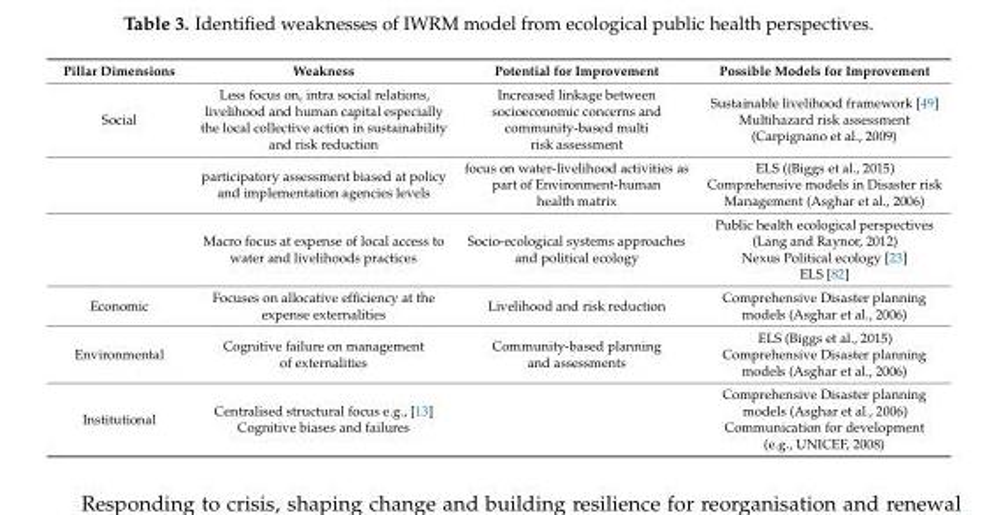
<table><thead><tr><td>Pillar Dimensions</td><td>Weakness</td><td>Potential for Improvement</td><td>Possible Models for Improvement</td></tr></thead><tbody><tr><td rowspan="3">Social</td><td>Less focus on, intra social relations, livelihood and human capital especially the local collective action in sustainability and risk reduction</td><td>Increased linkage between socioeconomic concerns and community-based multi risk assessment</td><td>Sustainable livelihood framework [49] Multihazard risk assessment (Carpignano et al., 2009)</td></tr><tr><td>participatory assessment biased at policy and implementation agencies levels</td><td>focus on water-livelihood activities as part of Environment-human health matrix</td><td>ELS ((Biggs et al., 2015) Comprehensive models in Disaster risk Management (Asghar et al., 2006)</td></tr><tr><td>Macro focus at expense of local access to water and livelihoods practices</td><td>Socio-ecological systems approaches and political ecology</td><td>Public health ecological perspectives (Lang and Raynor, 2012) Nexus Political ecology [23] ELS [82]</td></tr><tr><td>Economic</td><td>Focuses on allocative efficiency at the expense externalities</td><td>Livelihood and risk reduction</td><td>Comprehensive Disaster planning models (Asghar et al., 2006)</td></tr><tr><td>Environmental</td><td>Cognitive failure on management of externalities</td><td>Community-based planning and assessments</td><td>ELS (Biggs et al., 2015) Comprehensive Disaster planning models (Asghar et al., 2006)</td></tr><tr><td>Institutional</td><td>Centralised structural focus e.g., [13] Cognitive biases and failures</td><td></td><td>Comprehensive Disaster planning models (Asghar et al., 2006) Communication for development (e.g., UNICEF, 2008)</td></tr></tbody></table>